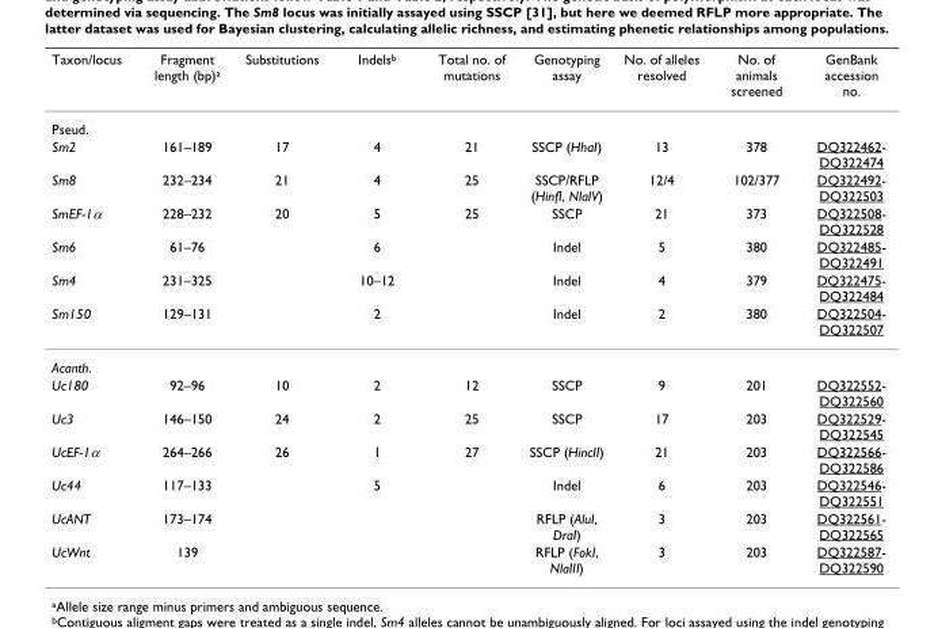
<table><thead><tr><td>Taxon/locus</td><td>Fragment length (bp)<sup>a</sup></td><td>Substitutions</td><td>Indels<sup>b</sup></td><td>Total no. of mutations</td><td>Genotyping assay</td><td>No. of alleles resolved</td><td>No. of animals screened</td><td>GenBank accession no.</td></tr></thead><tbody><tr><td colspan="9">Pseud.</td></tr><tr><td>Sm2</td><td>161–189</td><td>17</td><td>4</td><td>21</td><td>SSCP (HhaI)</td><td>13</td><td>378</td><td>DQ322462- DQ322474</td></tr><tr><td>Sm8</td><td>232–234</td><td>21</td><td>4</td><td>25</td><td>SSCP/RFLP (HinfI, NlaIV)</td><td>12/4</td><td>102/377</td><td>DQ322492- DQ322503</td></tr><tr><td>SmEF-1α</td><td>228–232</td><td>20</td><td>5</td><td>25</td><td>SSCP</td><td>21</td><td>373</td><td>DQ322508- DQ322528</td></tr><tr><td>Sm6</td><td>61–76</td><td></td><td>6</td><td></td><td>Indel</td><td>5</td><td>380</td><td>DQ322485- DQ322491</td></tr><tr><td>Sm4</td><td>231–325</td><td></td><td>10–12</td><td></td><td>Indel</td><td>4</td><td>379</td><td>DQ322475- DQ322484</td></tr><tr><td>Sm150</td><td>129–131</td><td></td><td>2</td><td></td><td>Indel</td><td>2</td><td>380</td><td>DQ322504- DQ322507</td></tr><tr><td colspan="9">Acanth.</td></tr><tr><td>Uc180</td><td>92–96</td><td>10</td><td>2</td><td>12</td><td>SSCP</td><td>9</td><td>201</td><td>DQ322552- DQ322560</td></tr><tr><td>Uc3</td><td>146–150</td><td>24</td><td>2</td><td>25</td><td>SSCP</td><td>17</td><td>203</td><td>DQ322529- DQ322545</td></tr><tr><td>UcEF-1α</td><td>264–266</td><td>26</td><td>1</td><td>27</td><td>SSCP (HincII)</td><td>21</td><td>203</td><td>DQ322566- DQ322586</td></tr><tr><td>Uc44</td><td>117–133</td><td></td><td>5</td><td></td><td>Indel</td><td>6</td><td>203</td><td>DQ322546- DQ322551</td></tr><tr><td>UcANT</td><td>173–174</td><td></td><td></td><td></td><td>RFLP (AluI, DraI)</td><td>3</td><td>203</td><td>DQ322561- DQ322565</td></tr><tr><td>UcWnt</td><td>139</td><td></td><td></td><td></td><td>RFLP (FokI, NlaIII)</td><td>3</td><td>203</td><td>DQ322587- DQ322590</td></tr></tbody></table>